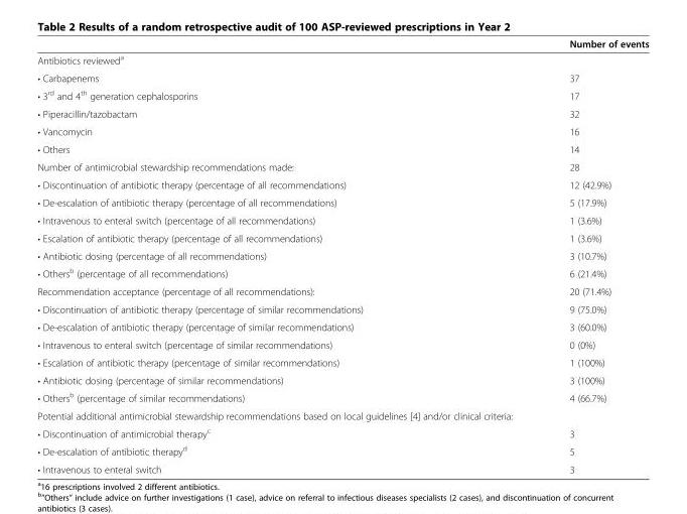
<table><thead><tr><td></td><td>Number of events</td></tr></thead><tbody><tr><td colspan="2">Antibiotics reviewed<sup>a</sup></td></tr><tr><td>• Carbapenems</td><td>37</td></tr><tr><td>• 3<sup>rd</sup> and 4<sup>th</sup> generation cephalosporins</td><td>17</td></tr><tr><td>• Piperacillin/tazobactam</td><td>32</td></tr><tr><td>• Vancomycin</td><td>16</td></tr><tr><td>• Others</td><td>14</td></tr><tr><td>Number of antimicrobial stewardship recommendations made:</td><td>28</td></tr><tr><td>• Discontinuation of antibiotic therapy (percentage of all recommendations)</td><td>12 (42.9%)</td></tr><tr><td>• De-escalation of antibiotic therapy (percentage of all recommendations)</td><td>5 (17.9%)</td></tr><tr><td>• Intravenous to enteral switch (percentage of all recommendations)</td><td>1 (3.6%)</td></tr><tr><td>• Escalation of antibiotic therapy (percentage of all recommendations)</td><td>1 (3.6%)</td></tr><tr><td>• Antibiotic dosing (percentage of all recommendations)</td><td>3 (10.7%)</td></tr><tr><td>• Others<sup>b</sup> (percentage of all recommendations)</td><td>6 (21.4%)</td></tr><tr><td>Recommendation acceptance (percentage of all recommendations):</td><td>20 (71.4%)</td></tr><tr><td>• Discontinuation of antibiotic therapy (percentage of similar recommendations)</td><td>9 (75.0%)</td></tr><tr><td>• De-escalation of antibiotic therapy (percentage of similar recommendations)</td><td>3 (60.0%)</td></tr><tr><td>• Intravenous to enteral switch (percentage of similar recommendations)</td><td>0 (0%)</td></tr><tr><td>• Escalation of antibiotic therapy (percentage of similar recommendations)</td><td>1 (100%)</td></tr><tr><td>• Antibiotic dosing (percentage of similar recommendations)</td><td>3 (100%)</td></tr><tr><td>• Others<sup>b</sup> (percentage of similar recommendations)</td><td>4 (66.7%)</td></tr><tr><td colspan="2">Potential additional antimicrobial stewardship recommendations based on local guidelines [4] and/or clinical criteria:</td></tr><tr><td>• Discontinuation of antimicrobial therapy<sup>c</sup></td><td>3</td></tr><tr><td>• De-escalation of antibiotic therapy<sup>d</sup></td><td>5</td></tr><tr><td>• Intravenous to enteral switch</td><td>3</td></tr></tbody></table>